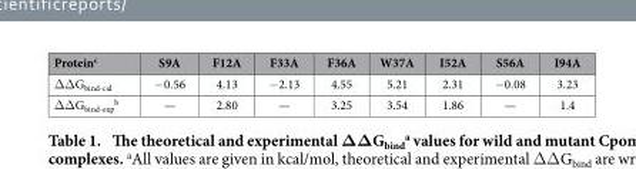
<table><thead><tr><td>Protein<sup>c</sup></td><td>S9A</td><td>F12A</td><td>F33A</td><td>F36A</td><td>W37A</td><td>I52A</td><td>S56A</td><td>I94A</td></tr></thead><tbody><tr><td>Δ Δ G<sub>bind-cal</sub></td><td>− 0.56</td><td>4.13</td><td>− 2.13</td><td>4.55</td><td>5.21</td><td>2.31</td><td>− 0.08</td><td>3.23</td></tr><tr><td>Δ Δ G<sub>bind-exp</sub> <sup>b</sup></td><td>—</td><td>2.80</td><td>—</td><td>3.25</td><td>3.54</td><td>1.86</td><td>—</td><td>1.4</td></tr></tbody></table>